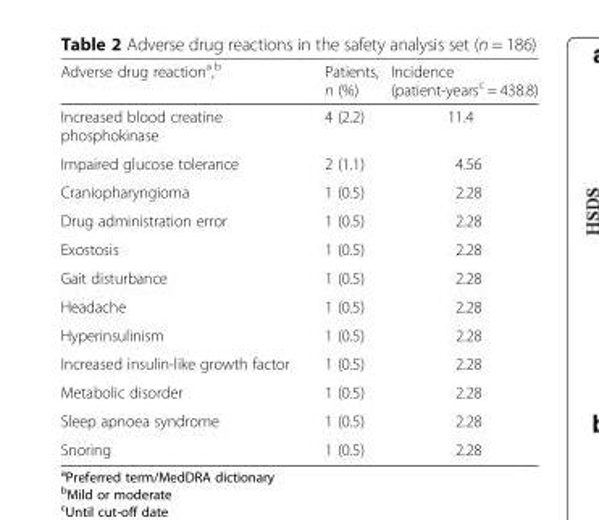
<table><thead><tr><td>Adverse drug reaction<sup>a</sup>,<sup>b</sup></td><td>Patients, n (%)</td><td>Incidence (patient-years<sup>c</sup> = 438.8)</td></tr></thead><tbody><tr><td>Increased blood creatine phosphokinase</td><td>4 (2.2)</td><td>11.4</td></tr><tr><td>Impaired glucose tolerance</td><td>2 (1.1)</td><td>4.56</td></tr><tr><td>Craniopharyngioma</td><td>1 (0.5)</td><td>2.28</td></tr><tr><td>Drug administration error</td><td>1 (0.5)</td><td>2.28</td></tr><tr><td>Exostosis</td><td>1 (0.5)</td><td>2.28</td></tr><tr><td>Gait disturbance</td><td>1 (0.5)</td><td>2.28</td></tr><tr><td>Headache</td><td>1 (0.5)</td><td>2.28</td></tr><tr><td>Hyperinsulinism</td><td>1 (0.5)</td><td>2.28</td></tr><tr><td>Increased insulin-like growth factor</td><td>1 (0.5)</td><td>2.28</td></tr><tr><td>Metabolic disorder</td><td>1 (0.5)</td><td>2.28</td></tr><tr><td>Sleep apnoea syndrome</td><td>1 (0.5)</td><td>2.28</td></tr><tr><td>Snoring</td><td>1 (0.5)</td><td>2.28</td></tr></tbody></table>